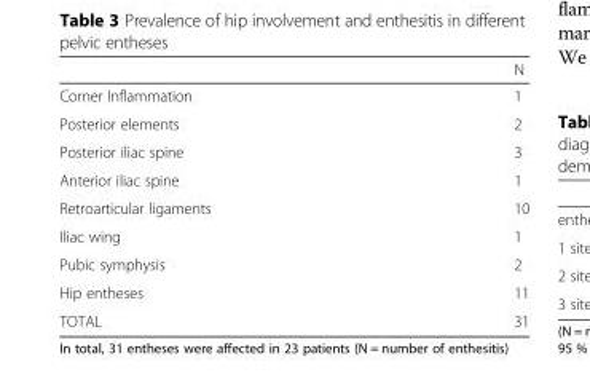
<table><thead><tr><td></td><td>N</td></tr></thead><tbody><tr><td>Corner Inflammation</td><td>1</td></tr><tr><td>Posterior elements</td><td>2</td></tr><tr><td>Posterior iliac spine</td><td>3</td></tr><tr><td>Anterior iliac spine</td><td>1</td></tr><tr><td>Retroarticular ligaments</td><td>10</td></tr><tr><td>Iliac wing</td><td>1</td></tr><tr><td>Pubic symphysis</td><td>2</td></tr><tr><td>Hip entheses</td><td>11</td></tr><tr><td>TOTAL</td><td>31</td></tr></tbody></table>